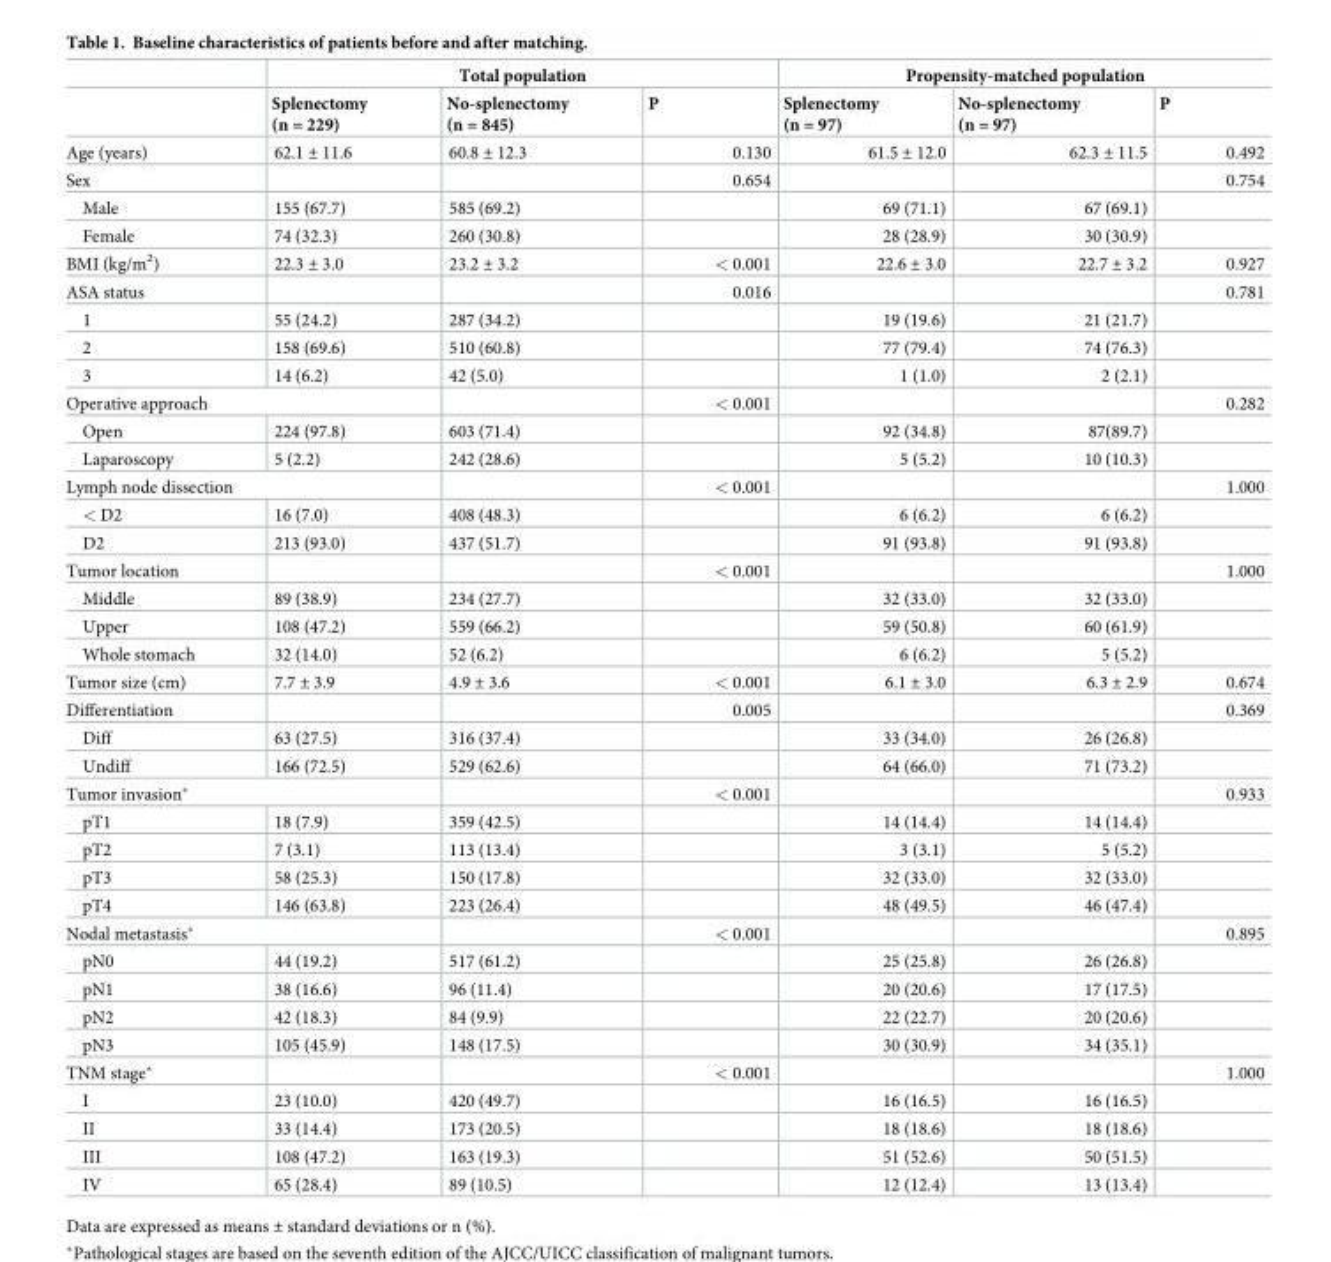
<table><thead><tr><td rowspan="2"></td><td colspan="3">Total population</td><td colspan="3">Propensity-matched population</td></tr><tr><td>Splenectomy (n = 229)</td><td>No-splenectomy (n = 845)</td><td>P</td><td>Splenectomy (n = 97)</td><td>No-splenectomy (n = 97)</td><td>P</td></tr></thead><tbody><tr><td>Age (years)</td><td>62.1 ± 11.6</td><td>60.8 ± 12.3</td><td>0.130</td><td>61.5 ± 12.0</td><td>62.3 ± 11.5</td><td>0.492</td></tr><tr><td>Sex</td><td></td><td></td><td>0.654</td><td></td><td></td><td>0.754</td></tr><tr><td>Male</td><td>155 (67.7)</td><td>585 (69.2)</td><td></td><td>69 (71.1)</td><td>67 (69.1)</td><td></td></tr><tr><td>Female</td><td>74 (32.3)</td><td>260 (30.8)</td><td></td><td>28 (28.9)</td><td>30 (30.9)</td><td></td></tr><tr><td>BMI (kg/m<sup>2</sup>)</td><td>22.3 ± 3.0</td><td>23.2 ± 3.2</td><td>&lt; 0.001</td><td>22.6 ± 3.0</td><td>22.7 ± 3.2</td><td>0.927</td></tr><tr><td>ASA status</td><td></td><td></td><td>0.016</td><td></td><td></td><td>0.781</td></tr><tr><td>1</td><td>55 (24.2)</td><td>287 (34.2)</td><td></td><td>19 (19.6)</td><td>21 (21.7)</td><td></td></tr><tr><td>2</td><td>158 (69.6)</td><td>510 (60.8)</td><td></td><td>77 (79.4)</td><td>74 (76.3)</td><td></td></tr><tr><td>3</td><td>14 (6.2)</td><td>42 (5.0)</td><td></td><td>1 (1.0)</td><td>2 (2.1)</td><td></td></tr><tr><td colspan="2">Operative approach</td><td></td><td>&lt; 0.001</td><td></td><td></td><td>0.282</td></tr><tr><td>Open</td><td>224 (97.8)</td><td>603 (71.4)</td><td></td><td>92 (34.8)</td><td>87(89.7)</td><td></td></tr><tr><td>Laparoscopy</td><td>5 (2.2)</td><td>242 (28.6)</td><td></td><td>5 (5.2)</td><td>10 (10.3)</td><td></td></tr><tr><td colspan="2">Lymph node dissection</td><td></td><td>&lt; 0.001</td><td></td><td></td><td>1.000</td></tr><tr><td>&lt; D2</td><td>16 (7.0)</td><td>408 (48.3)</td><td></td><td>6 (6.2)</td><td>6 (6.2)</td><td></td></tr><tr><td>D2</td><td>213 (93.0)</td><td>437 (51.7)</td><td></td><td>91 (93.8)</td><td>91 (93.8)</td><td></td></tr><tr><td>Tumor location</td><td></td><td></td><td>&lt; 0.001</td><td></td><td></td><td>1.000</td></tr><tr><td>Middle</td><td>89 (38.9)</td><td>234 (27.7)</td><td></td><td>32 (33.0)</td><td>32 (33.0)</td><td></td></tr><tr><td>Upper</td><td>108 (47.2)</td><td>559 (66.2)</td><td></td><td>59 (50.8)</td><td>60 (61.9)</td><td></td></tr><tr><td>Whole stomach</td><td>32 (14.0)</td><td>52 (6.2)</td><td></td><td>6 (6.2)</td><td>5 (5.2)</td><td></td></tr><tr><td>Tumor size (cm)</td><td>7.7 ± 3.9</td><td>4.9 ± 3.6</td><td>&lt; 0.001</td><td>6.1 ± 3.0</td><td>6.3 ± 2.9</td><td>0.674</td></tr><tr><td>Differentiation</td><td></td><td></td><td>0.005</td><td></td><td></td><td>0.369</td></tr><tr><td>Diff</td><td>63 (27.5)</td><td>316 (37.4)</td><td></td><td>33 (34.0)</td><td>26 (26.8)</td><td></td></tr><tr><td>Undiff</td><td>166 (72.5)</td><td>529 (62.6)</td><td></td><td>64 (66.0)</td><td>71 (73.2)</td><td></td></tr><tr><td colspan="2">Tumor invasion*</td><td></td><td>&lt; 0.001</td><td></td><td></td><td>0.933</td></tr><tr><td>pT1</td><td>18 (7.9)</td><td>359 (42.5)</td><td></td><td>14 (14.4)</td><td>14 (14.4)</td><td></td></tr><tr><td>pT2</td><td>7 (3.1)</td><td>113 (13.4)</td><td></td><td>3 (3.1)</td><td>5 (5.2)</td><td></td></tr><tr><td>pT3</td><td>58 (25.3)</td><td>150 (17.8)</td><td></td><td>32 (33.0)</td><td>32 (33.0)</td><td></td></tr><tr><td>pT4</td><td>146 (63.8)</td><td>223 (26.4)</td><td></td><td>48 (49.5)</td><td>46 (47.4)</td><td></td></tr><tr><td colspan="2">Nodal metastasis*</td><td></td><td>&lt; 0.001</td><td></td><td></td><td>0.895</td></tr><tr><td>pN0</td><td>44 (19.2)</td><td>517 (61.2)</td><td></td><td>25 (25.8)</td><td>26 (26.8)</td><td></td></tr><tr><td>pN1</td><td>38 (16.6)</td><td>96 (11.4)</td><td></td><td>20 (20.6)</td><td>17 (17.5)</td><td></td></tr><tr><td>pN2</td><td>42 (18.3)</td><td>84 (9.9)</td><td></td><td>22 (22.7)</td><td>20 (20.6)</td><td></td></tr><tr><td>pN3</td><td>105 (45.9)</td><td>148 (17.5)</td><td></td><td>30 (30.9)</td><td>34 (35.1)</td><td></td></tr><tr><td>TNM stage*</td><td></td><td></td><td>&lt; 0.001</td><td></td><td></td><td>1.000</td></tr><tr><td>I</td><td>23 (10.0)</td><td>420 (49.7)</td><td></td><td>16 (16.5)</td><td>16 (16.5)</td><td></td></tr><tr><td>II</td><td>33 (14.4)</td><td>173 (20.5)</td><td></td><td>18 (18.6)</td><td>18 (18.6)</td><td></td></tr><tr><td>III</td><td>108 (47.2)</td><td>163 (19.3)</td><td></td><td>51 (52.6)</td><td>50 (51.5)</td><td></td></tr><tr><td>IV</td><td>65 (28.4)</td><td>89 (10.5)</td><td></td><td>12 (12.4)</td><td>13 (13.4)</td><td></td></tr></tbody></table>